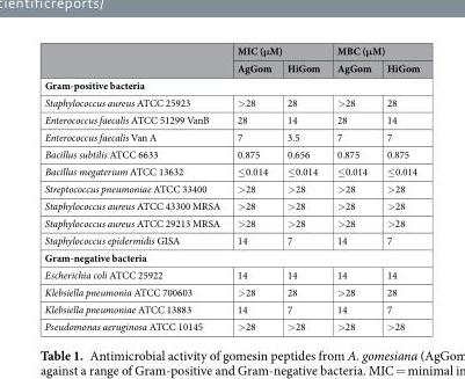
<table><thead><tr><td rowspan="2"></td><td colspan="2">MIC (μM)</td><td colspan="2">MBC (μM)</td></tr><tr><td>AgGom</td><td>HiGom</td><td>AgGom</td><td>HiGom</td></tr></thead><tbody><tr><td colspan="5">Gram-positive bacteria</td></tr><tr><td>Staphylococcus aureus ATCC 25923</td><td>&gt;28</td><td>28</td><td>&gt;28</td><td>28</td></tr><tr><td>Enterococcus faecalis ATCC 51299 VanB</td><td>28</td><td>14</td><td>28</td><td>14</td></tr><tr><td>Enterococcus faecalis Van A</td><td>7</td><td>3.5</td><td>7</td><td>7</td></tr><tr><td>Bacillus subtilis ATCC 6633</td><td>0.875</td><td>0.656</td><td>0.875</td><td>0.875</td></tr><tr><td>Bacillus megaterium ATCC 13632</td><td>≤0.014</td><td>≤0.014</td><td>≤0.014</td><td>≤0.014</td></tr><tr><td>Streptococcus pneumoniae ATCC 33400</td><td>&gt;28</td><td>&gt;28</td><td>&gt;28</td><td>&gt;28</td></tr><tr><td>Staphylococcus aureus ATCC 43300 MRSA</td><td>&gt;28</td><td>&gt;28</td><td>&gt;28</td><td>&gt;28</td></tr><tr><td>Staphylococcus aureus ATCC 29213 MRSA</td><td>&gt;28</td><td>&gt;28</td><td>&gt;28</td><td>&gt;28</td></tr><tr><td>Staphylococcus epidermidis GISA</td><td>14</td><td>7</td><td>14</td><td>7</td></tr><tr><td colspan="5">Gram-negative bacteria</td></tr><tr><td>Escherichia coli ATCC 25922</td><td>14</td><td>14</td><td>14</td><td>14</td></tr><tr><td>Klebsiella pneumonia ATCC 700603</td><td>&gt;28</td><td>28</td><td>&gt;28</td><td>28</td></tr><tr><td>Klebsiella pneumoniae ATCC 13883</td><td>14</td><td>7</td><td>14</td><td>7</td></tr><tr><td>Pseudomonas aeruginosa ATCC 10145</td><td>&gt;28</td><td>&gt;28</td><td>&gt;28</td><td>&gt;28</td></tr></tbody></table>